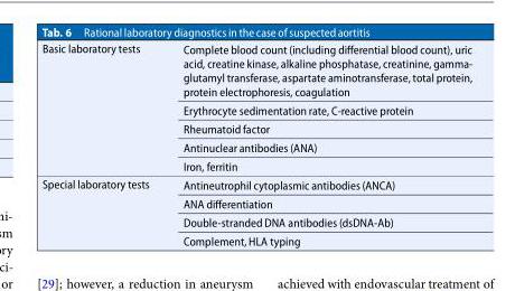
<table><tbody><tr><td rowspan="5">Basic laboratory tests</td><td>Complete blood count (including differential blood count), uric acid, creatine kinase, alkaline phosphatase, creatinine, gamma- glutamyl transferase, aspartate aminotransferase, total protein, protein electrophoresis, coagulation</td></tr><tr><td>Erythrocyte sedimentation rate, C-reactive protein</td></tr><tr><td>Rheumatoid factor</td></tr><tr><td>Antinuclearantibodies (ANA)</td></tr><tr><td>Iron, ferritin</td></tr><tr><td rowspan="4">Special laboratory tests</td><td>Antineutrophil cytoplasmic antibodies (ANCA)</td></tr><tr><td>ANA differentiation</td></tr><tr><td>Double-stranded DNA antibodies (dsDNA-Ab)</td></tr><tr><td>Complement, HLA typing</td></tr></tbody></table>